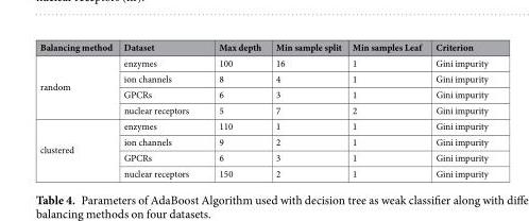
<table><thead><tr><td>Balancing method</td><td>Dataset</td><td>Max depth</td><td>Min sample split</td><td>Min samples Leaf</td><td>Criterion</td></tr></thead><tbody><tr><td rowspan="4">random</td><td>enzymes</td><td>100</td><td>16</td><td>1</td><td>Gini impurity</td></tr><tr><td>ion channels</td><td>8</td><td>4</td><td>1</td><td>Gini impurity</td></tr><tr><td>GPCRs</td><td>6</td><td>3</td><td>1</td><td>Gini impurity</td></tr><tr><td>nuclear receptors</td><td>5</td><td>7</td><td>2</td><td>Gini impurity</td></tr><tr><td rowspan="4">clustered</td><td>enzymes</td><td>110</td><td>1</td><td>1</td><td>Gini impurity</td></tr><tr><td>ion channels</td><td>9</td><td>2</td><td>1</td><td>Gini impurity</td></tr><tr><td>GPCRs</td><td>6</td><td>3</td><td>1</td><td>Gini impurity</td></tr><tr><td>nuclear receptors</td><td>150</td><td>2</td><td>1</td><td>Gini impurity</td></tr></tbody></table>